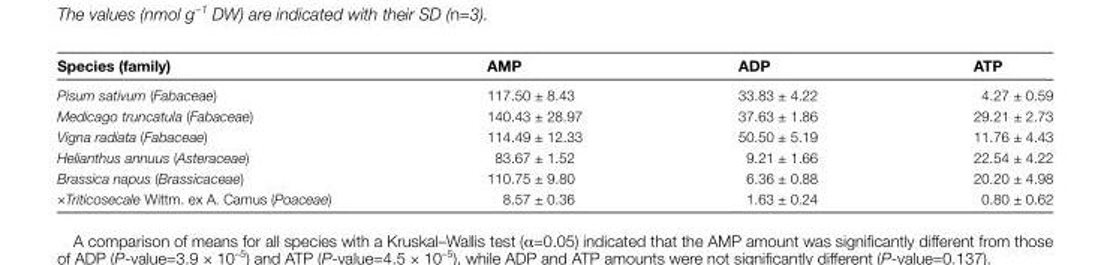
<table><thead><tr><td>Species (family)</td><td>AMP</td><td>ADP</td><td>ATP</td></tr></thead><tbody><tr><td>Pisum sativum (Fabaceae)</td><td>117.50 ± 8.43</td><td>33.83 ± 4.22</td><td>4.27 ± 0.59</td></tr><tr><td>Medicago truncatula (Fabaceae)</td><td>140.43 ± 28.97</td><td>37.63 ± 1.86</td><td>29.21 ± 2.73</td></tr><tr><td>Vigna radiata (Fabaceae)</td><td>114.49 ± 12.33</td><td>50.50 ± 5.19</td><td>11.76 ± 4.43</td></tr><tr><td>Helianthus annuus (Asteraceae)</td><td>83.67 ± 1.52</td><td>9.21 ± 1.66</td><td>22.54 ± 4.22</td></tr><tr><td>Brassica napus (Brassicaceae)</td><td>110.75 ± 9.80</td><td>6.36 ± 0.88</td><td>20.20 ± 4.98</td></tr><tr><td>×Triticosecale Wittm. ex A. Camus (Poaceae)</td><td>8.57 ± 0.36</td><td>1.63 ± 0.24</td><td>0.80 ± 0.62</td></tr></tbody></table>